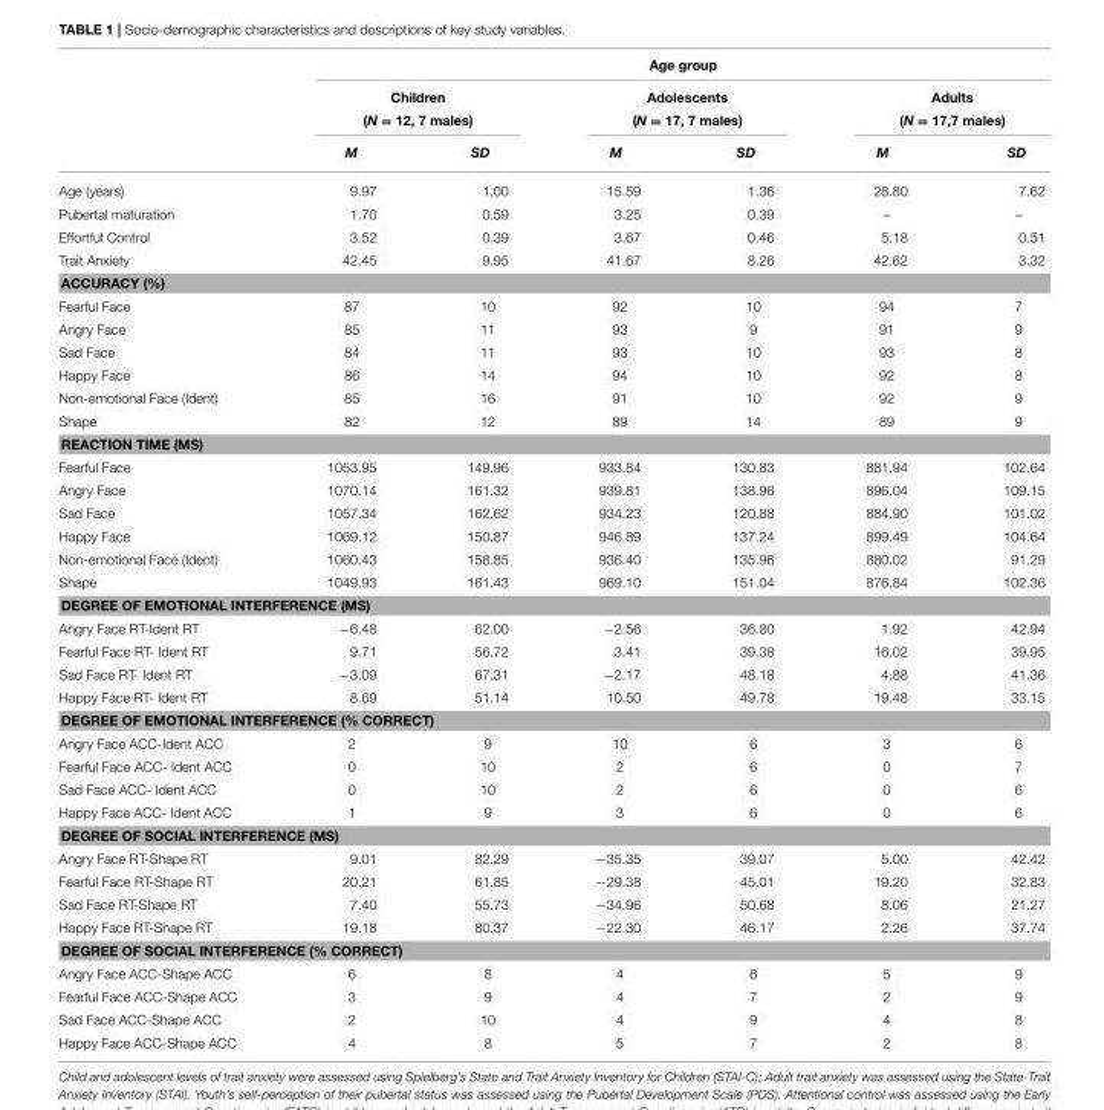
<table><thead><tr><td rowspan="3"></td><td colspan="6">Age group</td></tr><tr><td colspan="2">Children (N = 12, 7 males)</td><td colspan="2">Adolescents (N = 17, 7 males)</td><td colspan="2">Adults (N = 17,7 males)</td></tr><tr><td>M</td><td>SD</td><td>M</td><td>SD</td><td>M</td><td>SD</td></tr></thead><tbody><tr><td>Age (years)</td><td>9.97</td><td>1.00</td><td>15.59</td><td>1.36</td><td>28.80</td><td>7.62</td></tr><tr><td>Pubertal maturation</td><td>1.70</td><td>0.59</td><td>3.25</td><td>0.39</td><td>–</td><td>–</td></tr><tr><td>Effortful Control</td><td>3.52</td><td>0.39</td><td>3.67</td><td>0.46</td><td>5.18</td><td>0.51</td></tr><tr><td>Trait Anxiety</td><td>42.45</td><td>9.95</td><td>41.67</td><td>8.26</td><td>42.62</td><td>3.32</td></tr><tr><td colspan="7">ACCURACY (%)</td></tr><tr><td>Fearful Face</td><td>87</td><td>10</td><td>92</td><td>10</td><td>94</td><td>7</td></tr><tr><td>Angry Face</td><td>85</td><td>11</td><td>93</td><td>9</td><td>91</td><td>9</td></tr><tr><td>Sad Face</td><td>84</td><td>11</td><td>93</td><td>10</td><td>93</td><td>8</td></tr><tr><td>Happy Face</td><td>86</td><td>14</td><td>94</td><td>10</td><td>92</td><td>8</td></tr><tr><td>Non-emotional Face (Ident)</td><td>85</td><td>16</td><td>91</td><td>10</td><td>92</td><td>9</td></tr><tr><td>Shape</td><td>82</td><td>12</td><td>89</td><td>14</td><td>89</td><td>9</td></tr><tr><td colspan="7">REACTION TIME (MS)</td></tr><tr><td>Fearful Face</td><td>1053.95</td><td>149.96</td><td>933.84</td><td>130.83</td><td>881.94</td><td>102.64</td></tr><tr><td>Angry Face</td><td>1070.14</td><td>161.32</td><td>939.81</td><td>138.96</td><td>896.04</td><td>109.15</td></tr><tr><td>Sad Face</td><td>1057.34</td><td>162.62</td><td>934.23</td><td>120.88</td><td>884.90</td><td>101.02</td></tr><tr><td>Happy Face</td><td>1069.12</td><td>150.87</td><td>946.89</td><td>137.24</td><td>899.49</td><td>104.64</td></tr><tr><td>Non-emotional Face (Ident)</td><td>1060.43</td><td>158.85</td><td>936.40</td><td>135.96</td><td>880.02</td><td>91.29</td></tr><tr><td>Shape</td><td>1049.93</td><td>161.43</td><td>969.10</td><td>151.04</td><td>876.84</td><td>102.36</td></tr><tr><td colspan="7">DEGREE OF EMOTIONAL INTERFERENCE (MS)</td></tr><tr><td>Angry Face RT-Ident RT</td><td>−6.48</td><td>62.00</td><td>−2.56</td><td>36.80</td><td>1.92</td><td>42.94</td></tr><tr><td>Fearful Face RT- Ident RT</td><td>9.71</td><td>56.72</td><td>3.41</td><td>39.38</td><td>16.02</td><td>39.95</td></tr><tr><td>Sad Face RT- Ident RT</td><td>−3.09</td><td>67.31</td><td>−2.17</td><td>48.18</td><td>4.88</td><td>41.36</td></tr><tr><td>Happy Face RT- Ident RT</td><td>8.69</td><td>51.14</td><td>10.50</td><td>49.78</td><td>19.48</td><td>33.15</td></tr><tr><td colspan="7">DEGREE OF EMOTIONAL INTERFERENCE (% CORRECT)</td></tr><tr><td>Angry Face ACC-Ident ACC</td><td>2</td><td>9</td><td>10</td><td>6</td><td>3</td><td>6</td></tr><tr><td>Fearful Face ACC- Ident ACC</td><td>0</td><td>10</td><td>2</td><td>6</td><td>0</td><td>7</td></tr><tr><td>Sad Face ACC- Ident ACC</td><td>0</td><td>10</td><td>2</td><td>6</td><td>0</td><td>6</td></tr><tr><td>Happy Face ACC- Ident ACC</td><td>1</td><td>9</td><td>3</td><td>6</td><td>0</td><td>6</td></tr><tr><td colspan="7">DEGREE OF SOCIAL INTERFERENCE (MS)</td></tr><tr><td>Angry Face RT-Shape RT</td><td>9.01</td><td>82.29</td><td>−35.35</td><td>39.07</td><td>5.00</td><td>42.42</td></tr><tr><td>Fearful Face RT-Shape RT</td><td>20.21</td><td>61.85</td><td>−29.38</td><td>45.01</td><td>19.20</td><td>32.83</td></tr><tr><td>Sad Face RT-Shape RT</td><td>7.40</td><td>55.73</td><td>−34.96</td><td>50.68</td><td>8.06</td><td>21.27</td></tr><tr><td>Happy Face RT-Shape RT</td><td>19.18</td><td>80.37</td><td>−22.30</td><td>46.17</td><td>2.26</td><td>37.74</td></tr><tr><td colspan="7">DEGREE OF SOCIAL INTERFERENCE (% CORRECT)</td></tr><tr><td>Angry Face ACC-Shape ACC</td><td>6</td><td>8</td><td>4</td><td>6</td><td>5</td><td>9</td></tr><tr><td>Fearful Face ACC-Shape ACC</td><td>3</td><td>9</td><td>4</td><td>7</td><td>2</td><td>9</td></tr><tr><td>Sad Face ACC-Shape ACC</td><td>2</td><td>10</td><td>4</td><td>9</td><td>4</td><td>8</td></tr><tr><td>Happy Face ACC-Shape ACC</td><td>4</td><td>8</td><td>5</td><td>7</td><td>2</td><td>8</td></tr></tbody></table>